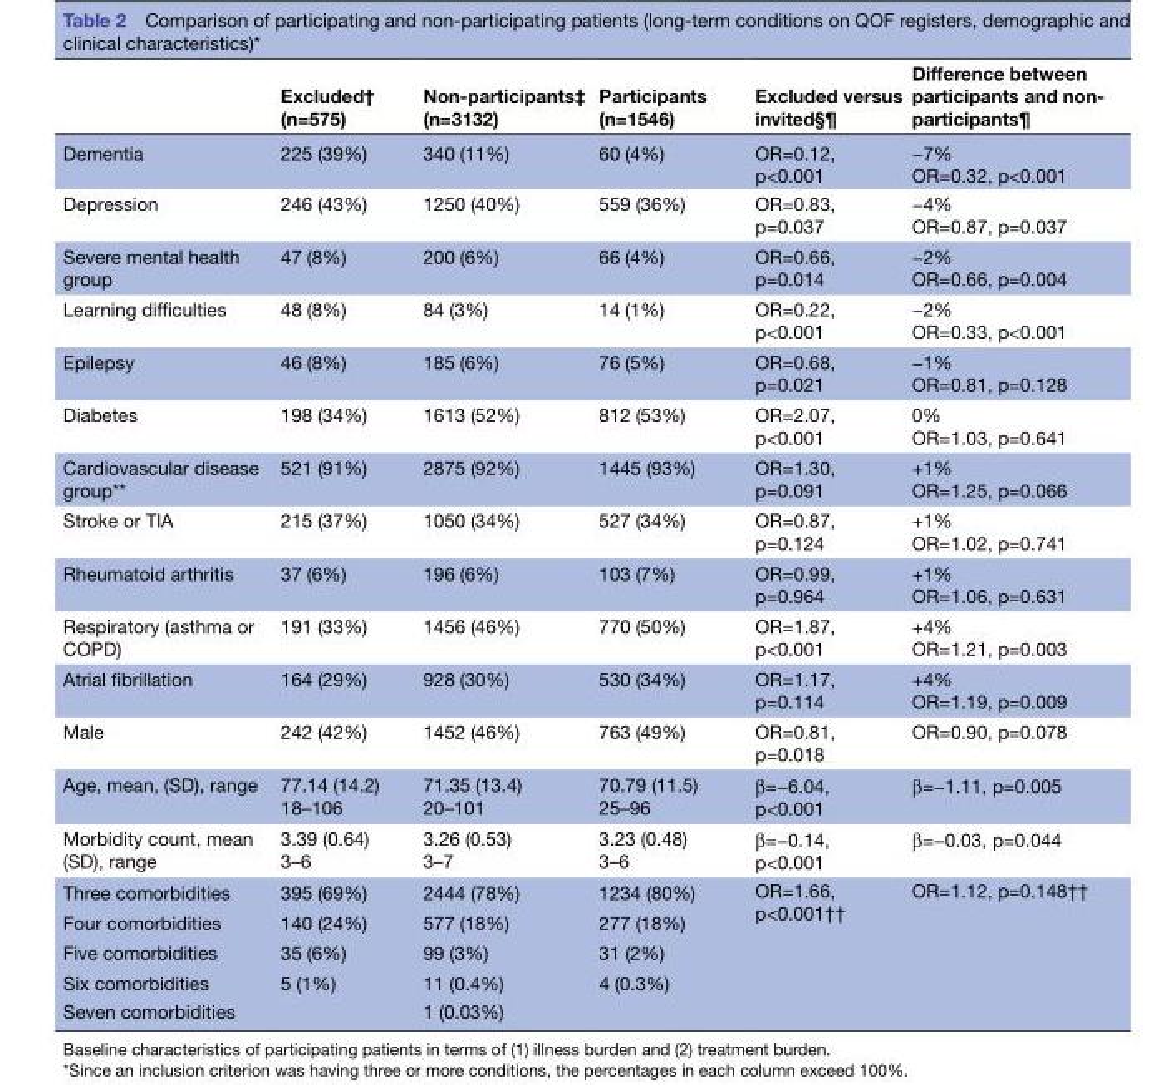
<table><thead><tr><td></td><td>Excluded† (n=575)</td><td>Non-participants‡ (n=3132)</td><td>Participants (n=1546)</td><td>Excluded versus invited§¶</td><td>Difference between participants and non- participants¶</td></tr></thead><tbody><tr><td>Dementia</td><td>225 (39%)</td><td>340 (11%)</td><td>60 (4%)</td><td>OR=0.12, p&lt;0.001</td><td>−7% OR=0.32, p&lt;0.001</td></tr><tr><td>Depression</td><td>246 (43%)</td><td>1250 (40%)</td><td>559 (36%)</td><td>OR=0.83, p=0.037</td><td>−4% OR=0.87, p=0.037</td></tr><tr><td>Severe mental health group</td><td>47 (8%)</td><td>200 (6%)</td><td>66 (4%)</td><td>OR=0.66, p=0.014</td><td>−2% OR=0.66, p=0.004</td></tr><tr><td>Learning difficulties</td><td>48 (8%)</td><td>84 (3%)</td><td>14 (1%)</td><td>OR=0.22, p&lt;0.001</td><td>−2% OR=0.33, p&lt;0.001</td></tr><tr><td>Epilepsy</td><td>46 (8%)</td><td>185 (6%)</td><td>76 (5%)</td><td>OR=0.68, p=0.021</td><td>−1% OR=0.81, p=0.128</td></tr><tr><td>Diabetes</td><td>198 (34%)</td><td>1613 (52%)</td><td>812 (53%)</td><td>OR=2.07, p&lt;0.001</td><td>0% OR=1.03, p=0.641</td></tr><tr><td>Cardiovascular disease group**</td><td>521 (91%)</td><td>2875 (92%)</td><td>1445 (93%)</td><td>OR=1.30, p=0.091</td><td>+1% OR=1.25, p=0.066</td></tr><tr><td>Stroke or TIA</td><td>215 (37%)</td><td>1050 (34%)</td><td>527 (34%)</td><td>OR=0.87, p=0.124</td><td>+1% OR=1.02, p=0.741</td></tr><tr><td>Rheumatoid arthritis</td><td>37 (6%)</td><td>196 (6%)</td><td>103 (7%)</td><td>OR=0.99, p=0.964</td><td>+1% OR=1.06, p=0.631</td></tr><tr><td>Respiratory (asthma or COPD)</td><td>191 (33%)</td><td>1456 (46%)</td><td>770 (50%)</td><td>OR=1.87, p&lt;0.001</td><td>+4% OR=1.21, p=0.003</td></tr><tr><td>Atrial fibrillation</td><td>164 (29%)</td><td>928 (30%)</td><td>530 (34%)</td><td>OR=1.17, p=0.114</td><td>+4% OR=1.19, p=0.009</td></tr><tr><td>Male</td><td>242 (42%)</td><td>1452 (46%)</td><td>763 (49%)</td><td>OR=0.81, p=0.018</td><td>OR=0.90, p=0.078</td></tr><tr><td>Age, mean, (SD), range</td><td>77.14 (14.2) 18–106</td><td>71.35 (13.4) 20–101</td><td>70.79 (11.5) 25–96</td><td>β=−6.04, p&lt;0.001</td><td>β=−1.11, p=0.005</td></tr><tr><td>Morbidity count, mean (SD), range</td><td>3.39 (0.64) 3–6</td><td>3.26 (0.53) 3–7</td><td>3.23 (0.48) 3–6</td><td>β=−0.14, p&lt;0.001</td><td>β=−0.03, p=0.044</td></tr><tr><td>Three comorbidities</td><td>395 (69%)</td><td>2444 (78%)</td><td>1234 (80%)</td><td rowspan="5">OR=1.66, p&lt;0.001††</td><td rowspan="5">OR=1.12, p=0.148††</td></tr><tr><td>Four comorbidities</td><td>140 (24%)</td><td>577 (18%)</td><td>277 (18%)</td></tr><tr><td>Five comorbidities</td><td>35 (6%)</td><td>99 (3%)</td><td>31 (2%)</td></tr><tr><td>Six comorbidities</td><td>5 (1%)</td><td>11 (0.4%)</td><td>4 (0.3%)</td></tr><tr><td>Seven comorbidities</td><td></td><td>1 (0.03%)</td><td></td></tr></tbody></table>